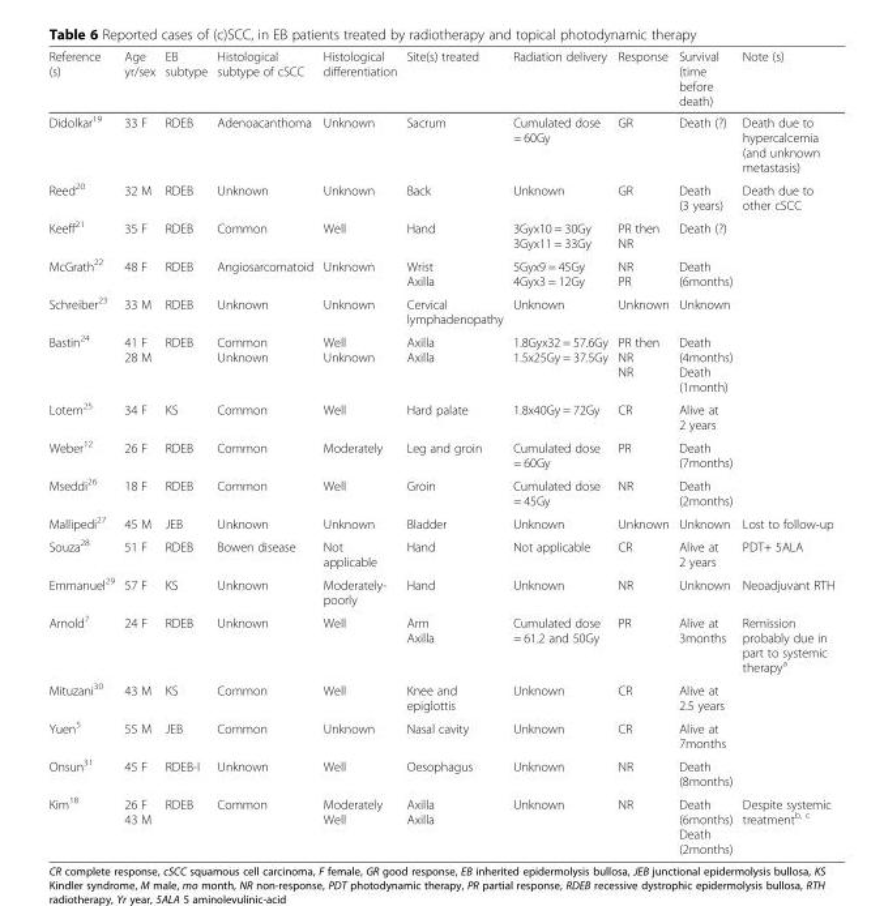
<table><thead><tr><td>Reference (s)</td><td>Age yr/sex</td><td>EB subtype</td><td>Histological subtype of cSCC</td><td>Histological differentiation</td><td>Site(s) treated</td><td>Radiation delivery</td><td>Response</td><td>Survival (time before death)</td><td>Note (s)</td></tr></thead><tbody><tr><td>Didolkar<sup>19</sup></td><td>33 F</td><td>RDEB</td><td>Adenoacanthoma</td><td>Unknown</td><td>Sacrum</td><td>Cumulated dose = 60Gy</td><td>GR</td><td>Death (?)</td><td>Death due to hypercalcemia (and unknown metastasis)</td></tr><tr><td>Reed<sup>20</sup></td><td>32 M</td><td>RDEB</td><td>Unknown</td><td>Unknown</td><td>Back</td><td>Unknown</td><td>GR</td><td>Death (3 years)</td><td>Death due to other cSCC</td></tr><tr><td>Keeff<sup>21</sup></td><td>35 F</td><td>RDEB</td><td>Common</td><td>Well</td><td>Hand</td><td>3Gyx10 = 30Gy 3Gyx11 = 33Gy</td><td>PR then NR</td><td>Death (?)</td><td></td></tr><tr><td>McGrath<sup>22</sup></td><td>48 F</td><td>RDEB</td><td>Angiosarcomatoid</td><td>Unknown</td><td>Wrist Axilla</td><td>5Gyx9 = 45Gy 4Gyx3 = 12Gy</td><td>NR PR</td><td>Death (6months)</td><td></td></tr><tr><td>Schreiber<sup>23</sup></td><td>33 M</td><td>RDEB</td><td>Unknown</td><td>Unknown</td><td>Cervical lymphadenopathy</td><td>Unknown</td><td>Unknown</td><td>Unknown</td><td></td></tr><tr><td>Bastin<sup>24</sup></td><td>41 F 28 M</td><td>RDEB</td><td>Common Unknown</td><td>Well Unknown</td><td>Axilla Axilla</td><td>1.8Gyx32 = 57.6Gy 1.5x25Gy = 37.5Gy</td><td>PR then NR NR</td><td>Death (4months) Death (1month)</td><td></td></tr><tr><td>Lotem<sup>25</sup></td><td>34 F</td><td>KS</td><td>Common</td><td>Well</td><td>Hard palate</td><td>1.8x40Gy = 72Gy</td><td>CR</td><td>Alive at 2 years</td><td></td></tr><tr><td>Weber<sup>12</sup></td><td>26 F</td><td>RDEB</td><td>Common</td><td>Moderately</td><td>Leg and groin</td><td>Cumulated dose = 60Gy</td><td>PR</td><td>Death (7months)</td><td></td></tr><tr><td>Mseddi<sup>26</sup></td><td>18 F</td><td>RDEB</td><td>Common</td><td>Well</td><td>Groin</td><td>Cumulated dose = 45Gy</td><td>NR</td><td>Death (2months)</td><td></td></tr><tr><td>Mallipedi<sup>27</sup></td><td>45 M</td><td>JEB</td><td>Unknown</td><td>Unknown</td><td>Bladder</td><td>Unknown</td><td>Unknown</td><td>Unknown</td><td>Lost to follow-up</td></tr><tr><td>Souza<sup>28</sup></td><td>51 F</td><td>RDEB</td><td>Bowen disease</td><td>Not applicable</td><td>Hand</td><td>Not applicable</td><td>CR</td><td>Alive at 2 years</td><td>PDT+ 5ALA</td></tr><tr><td>Emmanuel<sup>29</sup></td><td>57 F</td><td>KS</td><td>Unknown</td><td>Moderately- poorly</td><td>Hand</td><td>Unknown</td><td>NR</td><td>Unknown</td><td>Neoadjuvant RTH</td></tr><tr><td>Arnold<sup>7</sup></td><td>24 F</td><td>RDEB</td><td>Unknown</td><td>Well</td><td>Arm Axilla</td><td>Cumulated dose = 61.2 and 50Gy</td><td>PR</td><td>Alive at 3months</td><td>Remission probably due in part to systemic therapy<sup>a</sup></td></tr><tr><td>Mituzani<sup>30</sup></td><td>43 M</td><td>KS</td><td>Common</td><td>Well</td><td>Knee and epiglottis</td><td>Unknown</td><td>CR</td><td>Alive at 2.5 years</td><td></td></tr><tr><td>Yuen<sup>5</sup></td><td>55 M</td><td>JEB</td><td>Common</td><td>Unknown</td><td>Nasal cavity</td><td>Unknown</td><td>CR</td><td>Alive at 7months</td><td></td></tr><tr><td>Onsun<sup>31</sup></td><td>45 F</td><td>RDEB-I</td><td>Unknown</td><td>Well</td><td>Oesophagus</td><td>Unknown</td><td>NR</td><td>Death (8months)</td><td></td></tr><tr><td>Kim<sup>18</sup></td><td>26 F 43 M</td><td>RDEB</td><td>Common</td><td>Moderately Well</td><td>Axilla Axilla</td><td>Unknown</td><td>NR</td><td>Death (6months) Death (2months)</td><td>Despite systemic treatment<sup>b, c</sup></td></tr></tbody></table>